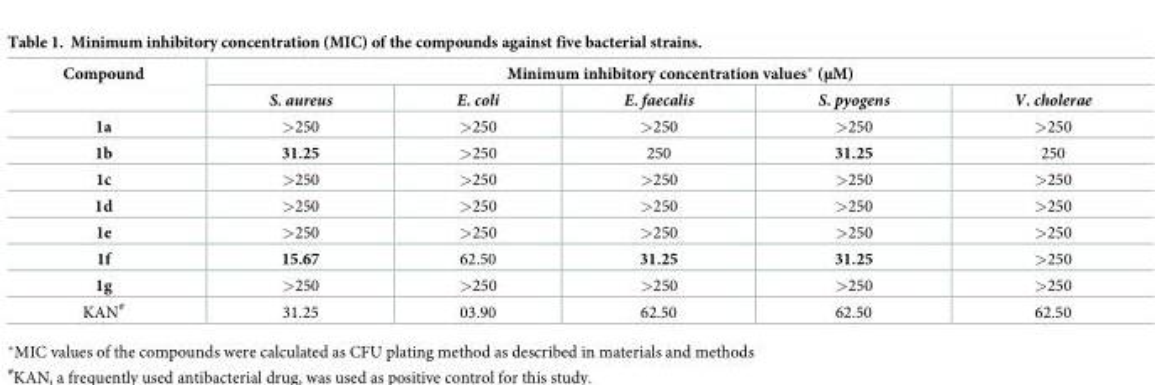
<table><thead><tr><td rowspan="2">Compound</td><td colspan="5">Minimum inhibitory concentration values* (μM)</td></tr><tr><td>S. aureus</td><td>E. coli</td><td>E. faecalis</td><td>S. pyogens</td><td>V. cholerae</td></tr></thead><tbody><tr><td>1a</td><td>&gt;250</td><td>&gt;250</td><td>&gt;250</td><td>&gt;250</td><td>&gt;250</td></tr><tr><td>1b</td><td>31.25</td><td>&gt;250</td><td>250</td><td>31.25</td><td>250</td></tr><tr><td>1c</td><td>&gt;250</td><td>&gt;250</td><td>&gt;250</td><td>&gt;250</td><td>&gt;250</td></tr><tr><td>1d</td><td>&gt;250</td><td>&gt;250</td><td>&gt;250</td><td>&gt;250</td><td>&gt;250</td></tr><tr><td>1e</td><td>&gt;250</td><td>&gt;250</td><td>&gt;250</td><td>&gt;250</td><td>&gt;250</td></tr><tr><td>1f</td><td>15.67</td><td>62.50</td><td>31.25</td><td>31.25</td><td>&gt;250</td></tr><tr><td>1g</td><td>&gt;250</td><td>&gt;250</td><td>&gt;250</td><td>&gt;250</td><td>&gt;250</td></tr><tr><td>KAN<sup>#</sup></td><td>31.25</td><td>03.90</td><td>62.50</td><td>62.50</td><td>62.50</td></tr></tbody></table>